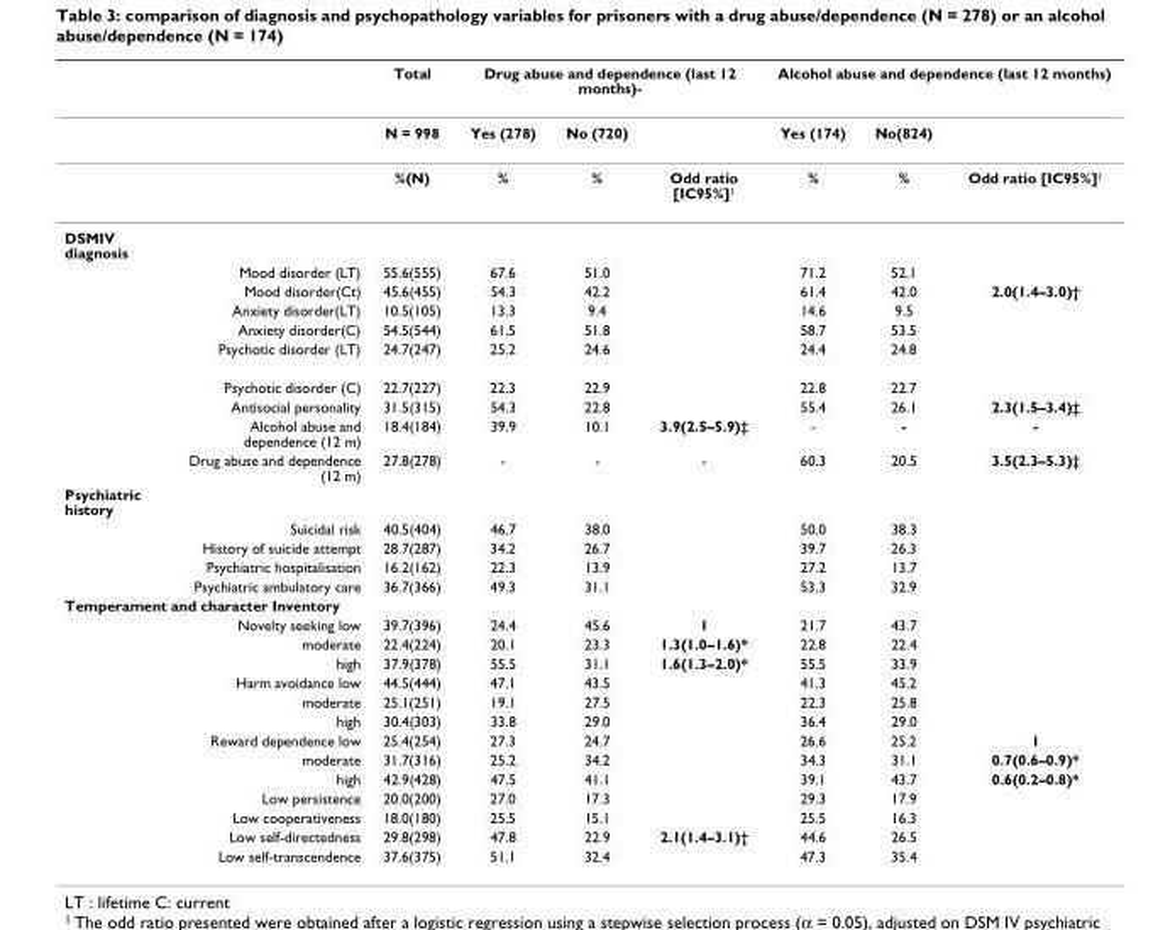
<table><thead><tr><td rowspan="2"></td><td rowspan="2"></td><td rowspan="2">Total N = 998</td><td colspan="3">Drug abuse and dependence (last 12 months)-</td><td colspan="3">Alcohol abuse and dependence (last 12 months)</td></tr><tr><td>Yes (278)</td><td>No (720)</td><td></td><td>Yes (174)</td><td>No(824)</td><td></td></tr></thead><tbody><tr><td></td><td></td><td>%(N)</td><td>%</td><td>%</td><td>Odd ratio [IC95%]<sup>1</sup></td><td>%</td><td>%</td><td>Odd ratio [IC95%]<sup>1</sup></td></tr><tr><td colspan="9">DSMIV diagnosis</td></tr><tr><td></td><td>Mood disorder (LT)</td><td>55.6(555)</td><td>67.6</td><td>51.0</td><td></td><td>71.2</td><td>52.1</td><td></td></tr><tr><td></td><td>Mood disorder(Ct)</td><td>45.6(455)</td><td>54.3</td><td>42.2</td><td></td><td>61.4</td><td>42.0</td><td>2.0(1.4–3.0)†</td></tr><tr><td></td><td>Anxiety disorder(LT)</td><td>10.5(105)</td><td>13.3</td><td>9.4</td><td></td><td>14.6</td><td>9.5</td><td></td></tr><tr><td></td><td>Anxiety disorder(C)</td><td>54.5(544)</td><td>61.5</td><td>51.8</td><td></td><td>58.7</td><td>53.5</td><td></td></tr><tr><td></td><td>Psychotic disorder (LT)</td><td>24.7(247)</td><td>25.2</td><td>24.6</td><td></td><td>24.4</td><td>24.8</td><td></td></tr><tr><td></td><td>Psychotic disorder (C)</td><td>22.7(227)</td><td>22.3</td><td>22.9</td><td></td><td>22.8</td><td>22.7</td><td></td></tr><tr><td></td><td>Antisocial personality</td><td>31.5(315)</td><td>54.3</td><td>22.8</td><td></td><td>55.4</td><td>26.1</td><td>2.3(1.5–3.4)‡</td></tr><tr><td></td><td>Alcohol abuse and dependence (12 m)</td><td>18.4(184)</td><td>39.9</td><td>10.1</td><td>3.9(2.5–5.9)‡</td><td>-</td><td>-</td><td>-</td></tr><tr><td></td><td>Drug abuse and dependence (12 m)</td><td>27.8(278)</td><td>-</td><td>-</td><td>-</td><td>60.3</td><td>20.5</td><td>3.5(2.3–5.3)‡</td></tr><tr><td colspan="9">Psychiatric history</td></tr><tr><td></td><td>Suicidal risk</td><td>40.5(404)</td><td>46.7</td><td>38.0</td><td></td><td>50.0</td><td>38.3</td><td></td></tr><tr><td></td><td>History of suicide attempt</td><td>28.7(287)</td><td>34.2</td><td>26.7</td><td></td><td>39.7</td><td>26.3</td><td></td></tr><tr><td></td><td>Psychiatric hospitalisation</td><td>16.2(162)</td><td>22.3</td><td>13.9</td><td></td><td>27.2</td><td>13.7</td><td></td></tr><tr><td></td><td>Psychiatric ambulatory care</td><td>36.7(366)</td><td>49.3</td><td>31.1</td><td></td><td>53.3</td><td>32.9</td><td></td></tr><tr><td colspan="9">Temperament and character Inventory</td></tr><tr><td></td><td>Novelty seeking low</td><td>39.7(396)</td><td>24.4</td><td>45.6</td><td>1</td><td>21.7</td><td>43.7</td><td></td></tr><tr><td></td><td>moderate</td><td>22.4(224)</td><td>20.1</td><td>23.3</td><td>1.3(1.0–1.6)*</td><td>22.8</td><td>22.4</td><td></td></tr><tr><td></td><td>high</td><td>37.9(378)</td><td>55.5</td><td>31.1</td><td>1.6(1.3–2.0)*</td><td>55.5</td><td>33.9</td><td></td></tr><tr><td></td><td>Harm avoidance low</td><td>44.5(444)</td><td>47.1</td><td>43.5</td><td></td><td>41.3</td><td>45.2</td><td></td></tr><tr><td></td><td>moderate</td><td>25.1(251)</td><td>19.1</td><td>27.5</td><td></td><td>22.3</td><td>25.8</td><td></td></tr><tr><td></td><td>high</td><td>30.4(303)</td><td>33.8</td><td>29.0</td><td></td><td>36.4</td><td>29.0</td><td></td></tr><tr><td></td><td>Reward dependence low</td><td>25.4(254)</td><td>27.3</td><td>24.7</td><td></td><td>26.6</td><td>25.2</td><td>1</td></tr><tr><td></td><td>moderate</td><td>31.7(316)</td><td>25.2</td><td>34.2</td><td></td><td>34.3</td><td>31.1</td><td>0.7(0.6–0.9)*</td></tr><tr><td></td><td>high</td><td>42.9(428)</td><td>47.5</td><td>41.1</td><td></td><td>39.1</td><td>43.7</td><td>0.6(0.2–0.8)*</td></tr><tr><td></td><td>Low persistence</td><td>20.0(200)</td><td>27.0</td><td>17.3</td><td></td><td>29.3</td><td>17.9</td><td></td></tr><tr><td></td><td>Low cooperativeness</td><td>18.0(180)</td><td>25.5</td><td>15.1</td><td></td><td>25.5</td><td>16.3</td><td></td></tr><tr><td></td><td>Low self-directedness</td><td>29.8(298)</td><td>47.8</td><td>22.9</td><td>2.1(1.4–3.1)†</td><td>44.6</td><td>26.5</td><td></td></tr><tr><td></td><td>Low self-transcendence</td><td>37.6(375)</td><td>51.1</td><td>32.4</td><td></td><td>47.3</td><td>35.4</td><td></td></tr></tbody></table>